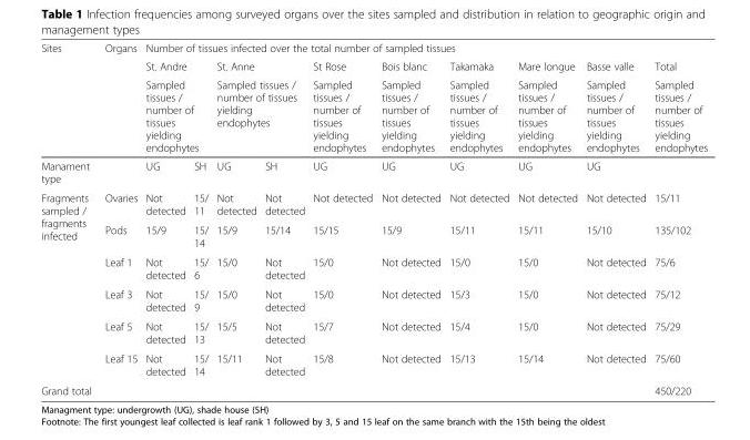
<table><thead><tr><td rowspan="4">Sites Manament type</td><td rowspan="4">Organs</td><td colspan="10">Number of tissues infected over the total number of sampled tissues</td></tr><tr><td rowspan="2" colspan="2">St. Andre Sampled tissues / number of tissues yielding endophytes</td><td rowspan="2" colspan="2">St. Anne Sampled tissues / number of tissues yielding endophytes</td><td rowspan="3">St Rose Sampled tissues / number of tissues yielding endophytes UG</td><td rowspan="3">Bois blanc Sampled tissues / number of tissues yielding endophytes UG</td><td rowspan="3">Takamaka Sampled tissues / number of tissues yielding endophytes UG</td><td rowspan="3">Mare longue Sampled tissues / number of tissues yielding endophytes UG</td><td rowspan="3">Basse valle Sampled tissues / number of tissues yielding endophytes UG</td><td rowspan="3">Total Sampled tissues / number of tissues yielding endophytes</td></tr><tr></tr><tr><td>UG</td><td>SH</td><td>UG</td><td>SH</td></tr></thead><tbody><tr><td rowspan="6">Fragments sampled / fragments infected</td><td>Ovaries</td><td>Not detected</td><td>15/ 11</td><td>Not detected</td><td>Not detected</td><td>Not detected</td><td>Not detected</td><td>Not detected</td><td>Not detected</td><td>Not detected</td><td>15/11</td></tr><tr><td>Pods</td><td>15/9</td><td>15/ 14</td><td>15/9</td><td>15/14</td><td>15/15</td><td>15/9</td><td>15/11</td><td>15/11</td><td>15/10</td><td>135/102</td></tr><tr><td>Leaf 1</td><td>Not detected</td><td>15/ 6</td><td>15/0</td><td>Not detected</td><td>15/0</td><td>Not detected</td><td>15/0</td><td>15/0</td><td>Not detected</td><td>75/6</td></tr><tr><td>Leaf 3</td><td>Not detected</td><td>15/ 9</td><td>15/0</td><td>Not detected</td><td>15/0</td><td>Not detected</td><td>15/3</td><td>15/0</td><td>Not detected</td><td>75/12</td></tr><tr><td>Leaf 5</td><td>Not detected</td><td>15/ 13</td><td>15/5</td><td>Not detected</td><td>15/7</td><td>Not detected</td><td>15/4</td><td>15/0</td><td>Not detected</td><td>75/29</td></tr><tr><td>Leaf 15</td><td>Not detected</td><td>15/ 14</td><td>15/11</td><td>Not detected</td><td>15/8</td><td>Not detected</td><td>15/13</td><td>15/14</td><td>Not detected</td><td>75/60</td></tr><tr><td colspan="11">Grand total</td><td>450/220</td></tr></tbody></table>